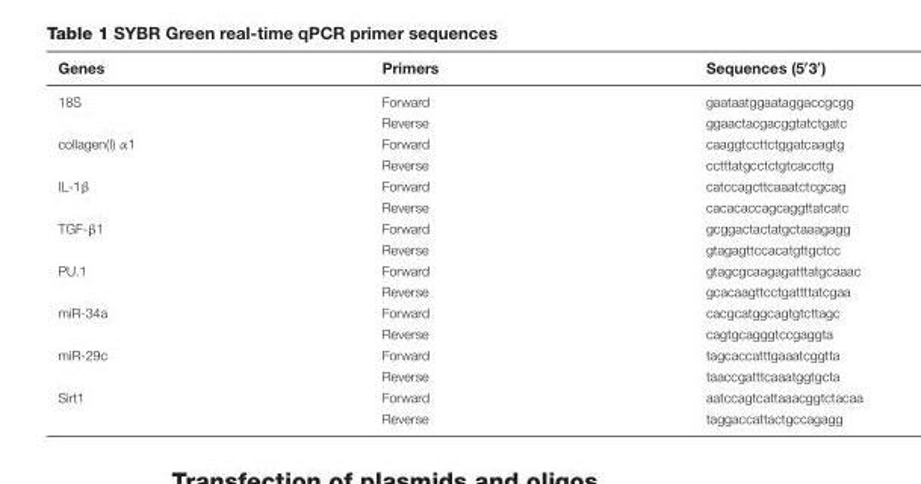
<table><thead><tr><td>Genes</td><td>Primers</td><td>Sequences (5′3′)</td></tr></thead><tbody><tr><td rowspan="2">18S</td><td>Forward</td><td>gaataatggaataggaccgcgg</td></tr><tr><td>Reverse</td><td>ggaactacgacggtatctgatc</td></tr><tr><td rowspan="2">collagen(I) α1</td><td>Forward</td><td>caaggtccttctggatcaagtg</td></tr><tr><td>Reverse</td><td>cctttatgcctctgtcaccttg</td></tr><tr><td rowspan="2">IL-1β</td><td>Forward</td><td>catccagcttcaaatctcgcag</td></tr><tr><td>Reverse</td><td>cacacaccagcaggttatcatc</td></tr><tr><td rowspan="2">TGF-β1</td><td>Forward</td><td>gcggactactatgctaaagagg</td></tr><tr><td>Reverse</td><td>gtagagttccacatgttgctcc</td></tr><tr><td rowspan="2">PU.1</td><td>Forward</td><td>gtagcgcaagagatttatgcaaac</td></tr><tr><td>Reverse</td><td>gcacaagttcctgattttatcgaa</td></tr><tr><td rowspan="2">miR-34a</td><td>Forward</td><td>cacgcatggcagtgtcttagc</td></tr><tr><td>Reverse</td><td>cagtgcagggtccgaggta</td></tr><tr><td rowspan="2">miR-29c</td><td>Forward</td><td>tagcaccatttgaaatcggtta</td></tr><tr><td>Reverse</td><td>taaccgatttcaaatggtgcta</td></tr><tr><td rowspan="2">Sirt1</td><td>Forward</td><td>aatccagtcattaaacggtctacaa</td></tr><tr><td>Reverse</td><td>taggaccattactgccagagg</td></tr></tbody></table>